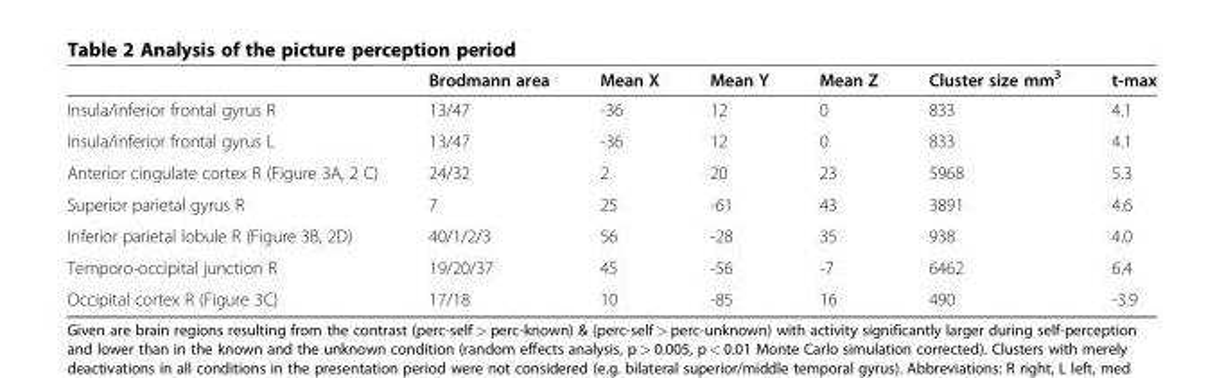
<table><thead><tr><td></td><td>Brodmann area</td><td>Mean X</td><td>Mean Y</td><td>Mean Z</td><td>Cluster size mm<sup>3</sup></td><td>t-max</td></tr></thead><tbody><tr><td>Insula/inferior frontal gyrus R</td><td>13/47</td><td>-36</td><td>12</td><td>0</td><td>833</td><td>4.1</td></tr><tr><td>Insula/inferior frontal gyrus L</td><td>13/47</td><td>-36</td><td>12</td><td>0</td><td>833</td><td>4.1</td></tr><tr><td>Anterior cingulate cortex R (Figure 3A, 2 C)</td><td>24/32</td><td>2</td><td>20</td><td>23</td><td>5968</td><td>5.3</td></tr><tr><td>Superior parietal gyrus R</td><td>7</td><td>25</td><td>-61</td><td>43</td><td>3891</td><td>4.6</td></tr><tr><td>Inferior parietal lobule R (Figure 3B, 2D)</td><td>40/1/2/3</td><td>56</td><td>-28</td><td>35</td><td>938</td><td>4.0</td></tr><tr><td>Temporo-occipital junction R</td><td>19/20/37</td><td>45</td><td>-56</td><td>-7</td><td>6462</td><td>6.4</td></tr><tr><td>Occipital cortex R (Figure 3C)</td><td>17/18</td><td>10</td><td>-85</td><td>16</td><td>490</td><td>-3.9</td></tr></tbody></table>